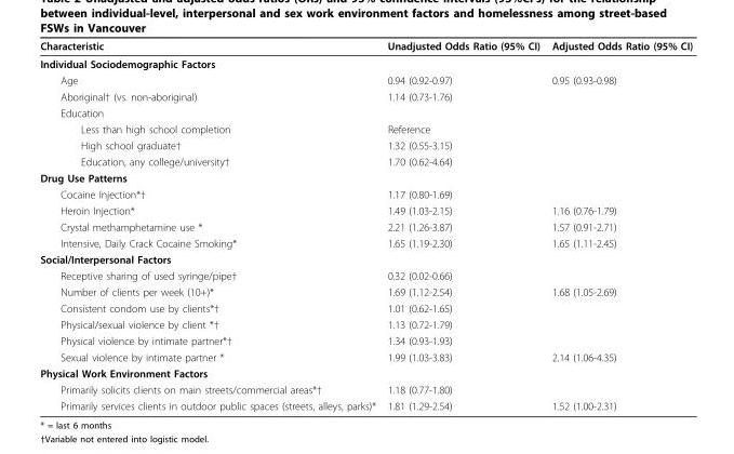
<table><thead><tr><td>Characteristic</td><td>Unadjusted Odds Ratio (95% CI)</td><td>Adjusted Odds Ratio (95% CI)</td></tr></thead><tbody><tr><td colspan="3">Individual Sociodemographic Factors</td></tr><tr><td>Age</td><td>0.94 (0.92-0.97)</td><td>0.95 (0.93-0.98)</td></tr><tr><td>Aboriginal† (vs. non-aboriginal)</td><td>1.14 (0.73-1.76)</td><td></td></tr><tr><td colspan="3">Education</td></tr><tr><td>Less than high school completion</td><td>Reference</td><td></td></tr><tr><td>High school graduate†</td><td>1.32 (0.55-3.15)</td><td></td></tr><tr><td>Education, any college/university†</td><td>1.70 (0.62-4.64)</td><td></td></tr><tr><td colspan="3">Drug Use Patterns</td></tr><tr><td>Cocaine Injection*†</td><td>1.17 (0.80-1.69)</td><td></td></tr><tr><td>Heroin Injection*</td><td>1.49 (1.03-2.15)</td><td>1.16 (0.76-1.79)</td></tr><tr><td>Crystal methamphetamine use *</td><td>2.21 (1.26-3.87)</td><td>1.57 (0.91-2.71)</td></tr><tr><td>Intensive, Daily Crack Cocaine Smoking*</td><td>1.65 (1.19-2.30)</td><td>1.65 (1.11-2.45)</td></tr><tr><td colspan="3">Social/Interpersonal Factors</td></tr><tr><td>Receptive sharing of used syringe/pipe†</td><td>0.32 (0.02-0.66)</td><td></td></tr><tr><td>Number of clients per week (10+)*</td><td>1.69 (1.12-2.54)</td><td>1.68 (1.05-2.69)</td></tr><tr><td>Consistent condom use by clients*†</td><td>1.01 (0.62-1.65)</td><td></td></tr><tr><td>Physical/sexual violence by client *†</td><td>1.13 (0.72-1.79)</td><td></td></tr><tr><td>Physical violence by intimate partner*†</td><td>1.34 (0.93-1.93)</td><td></td></tr><tr><td>Sexual violence by intimate partner *</td><td>1.99 (1.03-3.83)</td><td>2.14 (1.06-4.35)</td></tr><tr><td colspan="3">Physical Work Environment Factors</td></tr><tr><td>Primarily solicits clients on main streets/commercial areas*†</td><td>1.18 (0.77-1.80)</td><td></td></tr><tr><td>Primarily services clients in outdoor public spaces (streets, alleys, parks)*</td><td>1.81 (1.29-2.54)</td><td>1.52 (1.00-2.31)</td></tr></tbody></table>